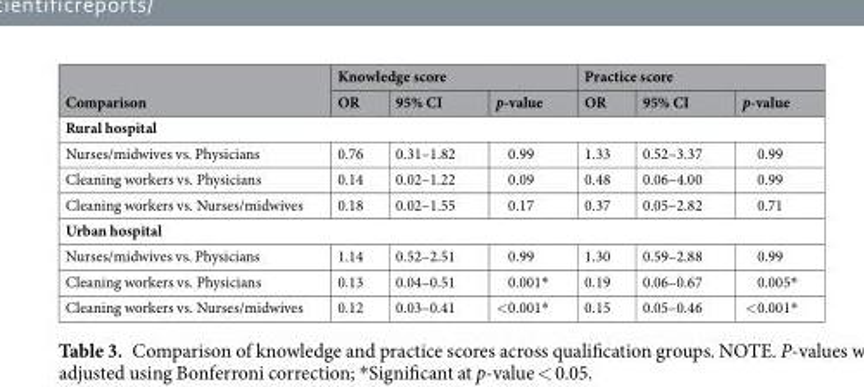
<table><thead><tr><td rowspan="2">Comparison</td><td colspan="3">Knowledge score</td><td colspan="3">Practice score</td></tr><tr><td>OR</td><td>95% CI</td><td>p-value</td><td>OR</td><td>95% CI</td><td>p-value</td></tr></thead><tbody><tr><td colspan="7">Rural hospital</td></tr><tr><td>Nurses/midwives vs. Physicians</td><td>0.76</td><td>0.31–1.82</td><td>0.99</td><td>1.33</td><td>0.52–3.37</td><td>0.99</td></tr><tr><td>Cleaning workers vs. Physicians</td><td>0.14</td><td>0.02–1.22</td><td>0.09</td><td>0.48</td><td>0.06–4.00</td><td>0.99</td></tr><tr><td>Cleaning workers vs. Nurses/midwives</td><td>0.18</td><td>0.02–1.55</td><td>0.17</td><td>0.37</td><td>0.05–2.82</td><td>0.71</td></tr><tr><td colspan="7">Urban hospital</td></tr><tr><td>Nurses/midwives vs. Physicians</td><td>1.14</td><td>0.52–2.51</td><td>0.99</td><td>1.30</td><td>0.59–2.88</td><td>0.99</td></tr><tr><td>Cleaning workers vs. Physicians</td><td>0.13</td><td>0.04–0.51</td><td>0.001*</td><td>0.19</td><td>0.06–0.67</td><td>0.005*</td></tr><tr><td>Cleaning workers vs. Nurses/midwives</td><td>0.12</td><td>0.03–0.41</td><td>&lt;0.001*</td><td>0.15</td><td>0.05–0.46</td><td>&lt;0.001*</td></tr></tbody></table>